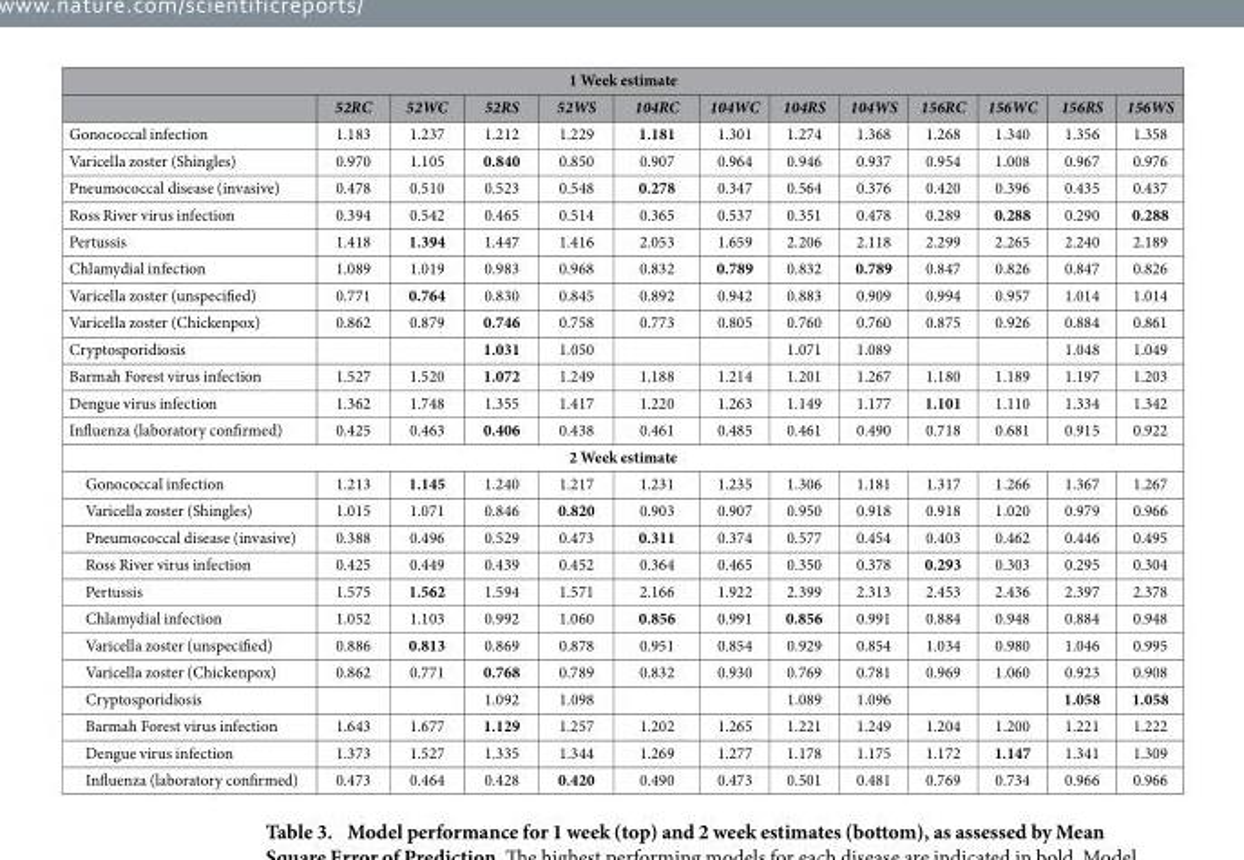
<table><thead><tr><td colspan="13">1 Week estimate</td></tr><tr><td></td><td>52RC</td><td>52WC</td><td>52RS</td><td>52WS</td><td>104RC</td><td>104WC</td><td>104RS</td><td>104WS</td><td>156RC</td><td>156WC</td><td>156RS</td><td>156WS</td></tr></thead><tbody><tr><td>Gonococcal infection</td><td>1.183</td><td>1.237</td><td>1.212</td><td>1.229</td><td>1.181</td><td>1.301</td><td>1.274</td><td>1.368</td><td>1.268</td><td>1.340</td><td>1.356</td><td>1.358</td></tr><tr><td>Varicella zoster (Shingles)</td><td>0.970</td><td>1.105</td><td>0.840</td><td>0.850</td><td>0.907</td><td>0.964</td><td>0.946</td><td>0.937</td><td>0.954</td><td>1.008</td><td>0.967</td><td>0.976</td></tr><tr><td>Pneumococcal disease (invasive)</td><td>0.478</td><td>0.510</td><td>0.523</td><td>0.548</td><td>0.278</td><td>0.347</td><td>0.564</td><td>0.376</td><td>0.420</td><td>0.396</td><td>0.435</td><td>0.437</td></tr><tr><td>Ross River virus infection</td><td>0.394</td><td>0.542</td><td>0.465</td><td>0.514</td><td>0.365</td><td>0.537</td><td>0.351</td><td>0.478</td><td>0.289</td><td>0.288</td><td>0.290</td><td>0.288</td></tr><tr><td>Pertussis</td><td>1.418</td><td>1.394</td><td>1.447</td><td>1.416</td><td>2.053</td><td>1.659</td><td>2.206</td><td>2.118</td><td>2.299</td><td>2.265</td><td>2.240</td><td>2.189</td></tr><tr><td>Chlamydial infection</td><td>1.089</td><td>1.019</td><td>0.983</td><td>0.968</td><td>0.832</td><td>0.789</td><td>0.832</td><td>0.789</td><td>0.847</td><td>0.826</td><td>0.847</td><td>0.826</td></tr><tr><td>Varicella zoster (unspecified)</td><td>0.771</td><td>0.764</td><td>0.830</td><td>0.845</td><td>0.892</td><td>0.942</td><td>0.883</td><td>0.909</td><td>0.994</td><td>0.957</td><td>1.014</td><td>1.014</td></tr><tr><td>Varicella zoster (Chickenpox)</td><td>0.862</td><td>0.879</td><td>0.746</td><td>0.758</td><td>0.773</td><td>0.805</td><td>0.760</td><td>0.760</td><td>0.875</td><td>0.926</td><td>0.884</td><td>0.861</td></tr><tr><td>Cryptosporidiosis</td><td></td><td></td><td>1.031</td><td>1.050</td><td></td><td></td><td>1.071</td><td>1.089</td><td></td><td></td><td>1.048</td><td>1.049</td></tr><tr><td>Barmah Forest virus infection</td><td>1.527</td><td>1.520</td><td>1.072</td><td>1.249</td><td>1.188</td><td>1.214</td><td>1.201</td><td>1.267</td><td>1.180</td><td>1.189</td><td>1.197</td><td>1.203</td></tr><tr><td>Dengue virus infection</td><td>1.362</td><td>1.748</td><td>1.355</td><td>1.417</td><td>1.220</td><td>1.263</td><td>1.149</td><td>1.177</td><td>1.101</td><td>1.110</td><td>1.334</td><td>1.342</td></tr><tr><td>Influenza (laboratory confirmed)</td><td>0.425</td><td>0.463</td><td>0.406</td><td>0.438</td><td>0.461</td><td>0.485</td><td>0.461</td><td>0.490</td><td>0.718</td><td>0.681</td><td>0.915</td><td>0.922</td></tr><tr><td colspan="13">2 Week estimate</td></tr><tr><td>Gonococcal infection</td><td>1.213</td><td>1.145</td><td>1.240</td><td>1.217</td><td>1.231</td><td>1.235</td><td>1.306</td><td>1.181</td><td>1.317</td><td>1.266</td><td>1.367</td><td>1.267</td></tr><tr><td>Varicella zoster (Shingles)</td><td>1.015</td><td>1.071</td><td>0.846</td><td>0.820</td><td>0.903</td><td>0.907</td><td>0.950</td><td>0.918</td><td>0.918</td><td>1.020</td><td>0.979</td><td>0.966</td></tr><tr><td>Pneumococcal disease (invasive)</td><td>0.388</td><td>0.496</td><td>0.529</td><td>0.473</td><td>0.311</td><td>0.374</td><td>0.577</td><td>0.454</td><td>0.403</td><td>0.462</td><td>0.446</td><td>0.495</td></tr><tr><td>Ross River virus infection</td><td>0.425</td><td>0.449</td><td>0.439</td><td>0.452</td><td>0.364</td><td>0.465</td><td>0.350</td><td>0.378</td><td>0.293</td><td>0.303</td><td>0.295</td><td>0.304</td></tr><tr><td>Pertussis</td><td>1.575</td><td>1.562</td><td>1.594</td><td>1.571</td><td>2.166</td><td>1.922</td><td>2.399</td><td>2.313</td><td>2.453</td><td>2.436</td><td>2.397</td><td>2.378</td></tr><tr><td>Chlamydial infection</td><td>1.052</td><td>1.103</td><td>0.992</td><td>1.060</td><td>0.856</td><td>0.991</td><td>0.856</td><td>0.991</td><td>0.884</td><td>0.948</td><td>0.884</td><td>0.948</td></tr><tr><td>Varicella zoster (unspecified)</td><td>0.886</td><td>0.813</td><td>0.869</td><td>0.878</td><td>0.951</td><td>0.854</td><td>0.929</td><td>0.854</td><td>1.034</td><td>0.980</td><td>1.046</td><td>0.995</td></tr><tr><td>Varicella zoster (Chickenpox)</td><td>0.862</td><td>0.771</td><td>0.768</td><td>0.789</td><td>0.832</td><td>0.930</td><td>0.769</td><td>0.781</td><td>0.969</td><td>1.060</td><td>0.923</td><td>0.908</td></tr><tr><td>Cryptosporidiosis</td><td></td><td></td><td>1.092</td><td>1.098</td><td></td><td></td><td>1.089</td><td>1.096</td><td></td><td></td><td>1.058</td><td>1.058</td></tr><tr><td>Barmah Forest virus infection</td><td>1.643</td><td>1.677</td><td>1.129</td><td>1.257</td><td>1.202</td><td>1.265</td><td>1.221</td><td>1.249</td><td>1.204</td><td>1.200</td><td>1.221</td><td>1.222</td></tr><tr><td>Dengue virus infection</td><td>1.373</td><td>1.527</td><td>1.335</td><td>1.344</td><td>1.269</td><td>1.277</td><td>1.178</td><td>1.175</td><td>1.172</td><td>1.147</td><td>1.341</td><td>1.309</td></tr><tr><td>Influenza (laboratory confirmed)</td><td>0.473</td><td>0.464</td><td>0.428</td><td>0.420</td><td>0.490</td><td>0.473</td><td>0.501</td><td>0.481</td><td>0.769</td><td>0.734</td><td>0.966</td><td>0.966</td></tr></tbody></table>